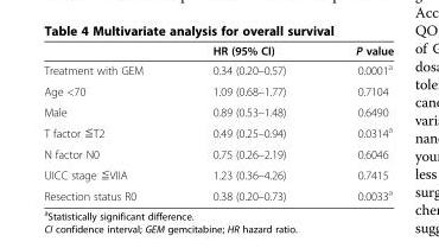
<table><thead><tr><td></td><td>HR (95% CI)</td><td>P value</td></tr></thead><tbody><tr><td>Treatment with GEM</td><td>0.34 (0.20–0.57)</td><td>0.0001<sup>a</sup></td></tr><tr><td>Age &lt;70</td><td>1.09 (0.68–1.77)</td><td>0.7104</td></tr><tr><td>Male</td><td>0.89 (0.53–1.48)</td><td>0.6490</td></tr><tr><td>T factor ≦T2</td><td>0.49 (0.25–0.94)</td><td>0.0314<sup>a</sup></td></tr><tr><td>N factor N0</td><td>0.75 (0.26–2.19)</td><td>0.6046</td></tr><tr><td>UICC stage ≦VIIA</td><td>1.23 (0.36–4.26)</td><td>0.7415</td></tr><tr><td>Resection status R0</td><td>0.38 (0.20–0.73)</td><td>0.0033<sup>a</sup></td></tr></tbody></table>